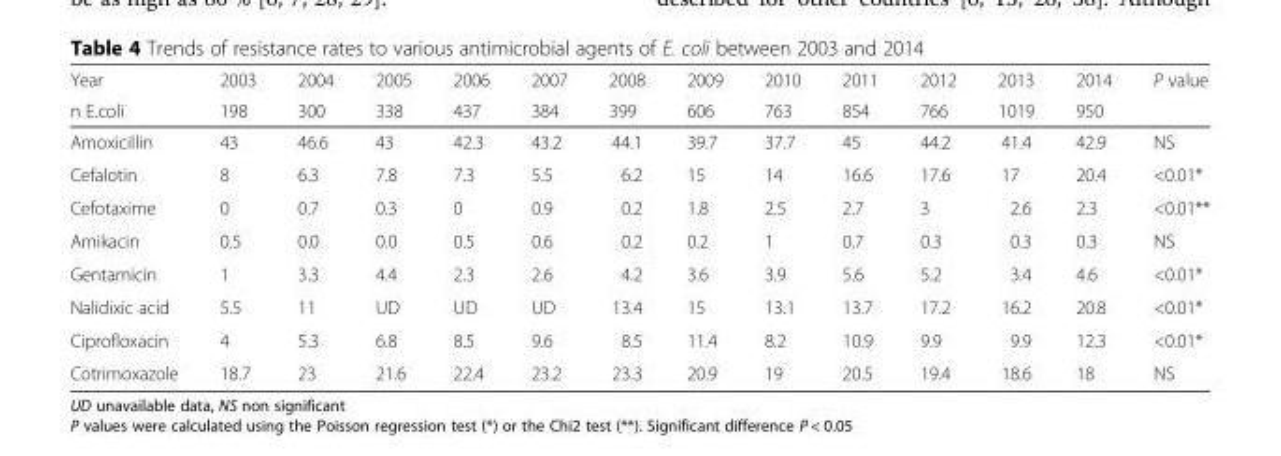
<table><thead><tr><td rowspan="2">Year n E.coli</td><td rowspan="2">2003 198</td><td rowspan="2">2004 300</td><td rowspan="2">2005 338</td><td rowspan="2">2006 437</td><td rowspan="2">2007 384</td><td rowspan="2">2008 399</td><td rowspan="2">2009 606</td><td rowspan="2">2010 763</td><td rowspan="2">2011 854</td><td rowspan="2">2012 766</td><td rowspan="2">2013 1019</td><td rowspan="2">2014 950</td><td rowspan="2">P value</td></tr><tr></tr></thead><tbody><tr><td>Amoxicillin</td><td>43</td><td>46.6</td><td>43</td><td>42.3</td><td>43.2</td><td>44.1</td><td>39.7</td><td>37.7</td><td>45</td><td>44.2</td><td>41.4</td><td>42.9</td><td>NS</td></tr><tr><td>Cefalotin</td><td>8</td><td>6.3</td><td>7.8</td><td>7.3</td><td>5.5</td><td>6.2</td><td>15</td><td>14</td><td>16.6</td><td>17.6</td><td>17</td><td>20.4</td><td>&lt;0.01*</td></tr><tr><td>Cefotaxime</td><td>0</td><td>0.7</td><td>0.3</td><td>0</td><td>0.9</td><td>0.2</td><td>1.8</td><td>2.5</td><td>2.7</td><td>3</td><td>2.6</td><td>2.3</td><td>&lt;0.01**</td></tr><tr><td>Amikacin</td><td>0.5</td><td>0.0</td><td>0.0</td><td>0.5</td><td>0.6</td><td>0.2</td><td>0.2</td><td>1</td><td>0.7</td><td>0.3</td><td>0.3</td><td>0.3</td><td>NS</td></tr><tr><td>Gentamicin</td><td>1</td><td>3.3</td><td>4.4</td><td>2.3</td><td>2.6</td><td>4.2</td><td>3.6</td><td>3.9</td><td>5.6</td><td>5.2</td><td>3.4</td><td>4.6</td><td>&lt;0.01*</td></tr><tr><td>Nalidixic acid</td><td>5.5</td><td>11</td><td>UD</td><td>UD</td><td>UD</td><td>13.4</td><td>15</td><td>13.1</td><td>13.7</td><td>17.2</td><td>16.2</td><td>20.8</td><td>&lt;0.01*</td></tr><tr><td>Ciprofloxacin</td><td>4</td><td>5.3</td><td>6.8</td><td>8.5</td><td>9.6</td><td>8.5</td><td>11.4</td><td>8.2</td><td>10.9</td><td>9.9</td><td>9.9</td><td>12.3</td><td>&lt;0.01*</td></tr><tr><td>Cotrimoxazole</td><td>18.7</td><td>23</td><td>21.6</td><td>22.4</td><td>23.2</td><td>23.3</td><td>20.9</td><td>19</td><td>20.5</td><td>19.4</td><td>18.6</td><td>18</td><td>NS</td></tr></tbody></table>